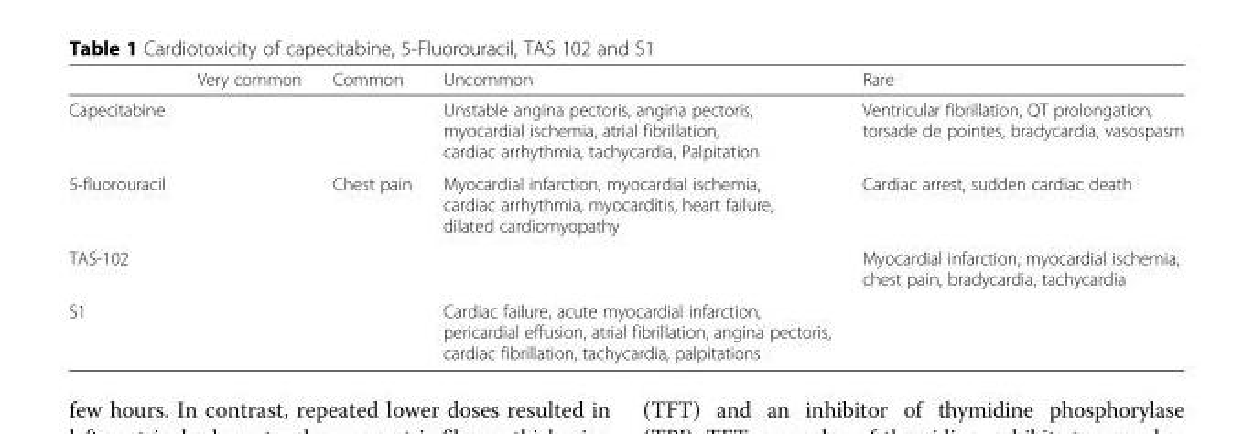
<table><thead><tr><td></td><td>Very common</td><td>Common</td><td>Uncommon</td><td>Rare</td></tr></thead><tbody><tr><td>Capecitabine</td><td></td><td></td><td>Unstable angina pectoris, angina pectoris, myocardial ischemia, atrial fibrillation, cardiac arrhythmia, tachycardia, Palpitation</td><td>Ventricular fibrillation, QT prolongation, torsade de pointes, bradycardia, vasospasm</td></tr><tr><td>5-fluorouracil</td><td></td><td>Chest pain</td><td>Myocardial infarction, myocardial ischemia, cardiac arrhythmia, myocarditis, heart failure, dilated cardiomyopathy</td><td>Cardiac arrest, sudden cardiac death</td></tr><tr><td>TAS-102</td><td></td><td></td><td></td><td>Myocardial infarction, myocardial ischemia, chest pain, bradycardia, tachycardia</td></tr><tr><td>S1</td><td></td><td></td><td>Cardiac failure, acute myocardial infarction, pericardial effusion, atrial fibrillation, angina pectoris, cardiac fibrillation, tachycardia, palpitations</td><td></td></tr></tbody></table>